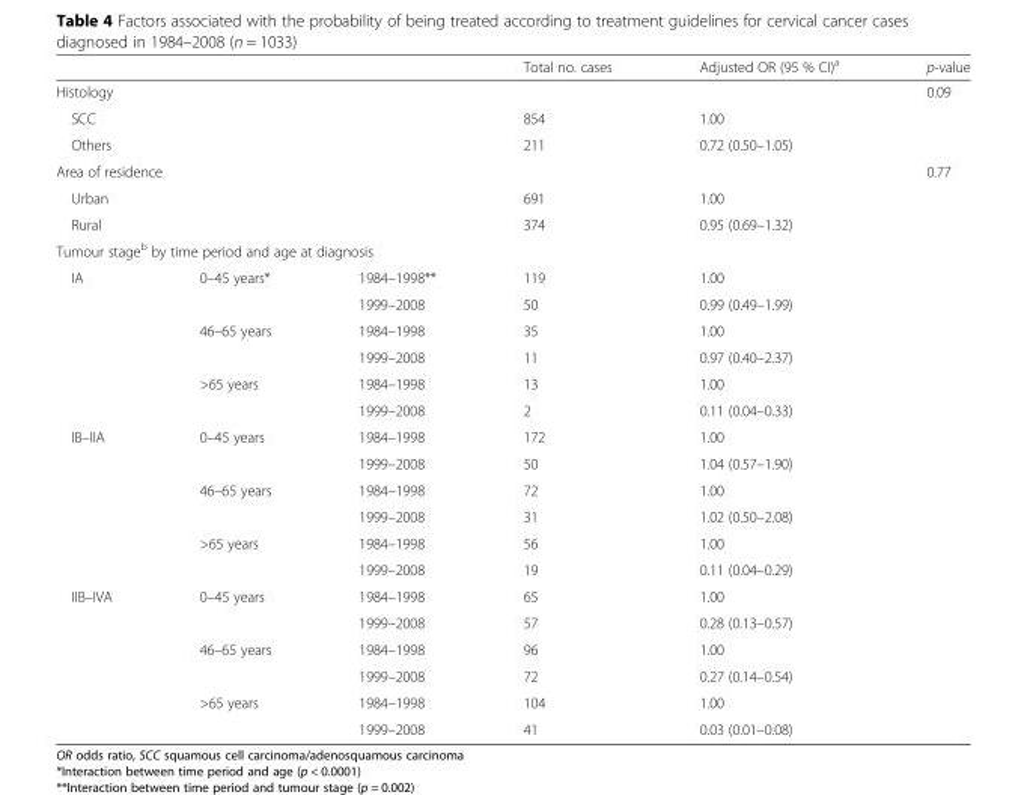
<table><thead><tr><td></td><td></td><td></td><td>Total no. cases</td><td>Adjusted OR (95 % CI)<sup>a</sup></td><td>p-value</td></tr></thead><tbody><tr><td colspan="3">Histology</td><td></td><td></td><td>0.09</td></tr><tr><td colspan="3">SCC</td><td>854</td><td>1.00</td><td></td></tr><tr><td colspan="3">Others</td><td>211</td><td>0.72 (0.50–1.05)</td><td></td></tr><tr><td colspan="3">Area of residence</td><td></td><td></td><td>0.77</td></tr><tr><td colspan="3">Urban</td><td>691</td><td>1.00</td><td></td></tr><tr><td colspan="3">Rural</td><td>374</td><td>0.95 (0.69–1.32)</td><td></td></tr><tr><td colspan="6">Tumour stage<sup>b</sup> by time period and age at diagnosis</td></tr><tr><td rowspan="6">IA</td><td>0–45 years*</td><td>1984–1998**</td><td>119</td><td>1.00</td><td></td></tr><tr><td></td><td>1999–2008</td><td>50</td><td>0.99 (0.49–1.99)</td><td></td></tr><tr><td>46–65 years</td><td>1984–1998</td><td>35</td><td>1.00</td><td></td></tr><tr><td></td><td>1999–2008</td><td>11</td><td>0.97 (0.40–2.37)</td><td></td></tr><tr><td>&gt;65 years</td><td>1984–1998</td><td>13</td><td>1.00</td><td></td></tr><tr><td></td><td>1999–2008</td><td>2</td><td>0.11 (0.04–0.33)</td><td></td></tr><tr><td rowspan="6">IB–IIA</td><td>0–45 years</td><td>1984–1998</td><td>172</td><td>1.00</td><td></td></tr><tr><td></td><td>1999–2008</td><td>50</td><td>1.04 (0.57–1.90)</td><td></td></tr><tr><td>46–65 years</td><td>1984–1998</td><td>72</td><td>1.00</td><td></td></tr><tr><td></td><td>1999–2008</td><td>31</td><td>1.02 (0.50–2.08)</td><td></td></tr><tr><td>&gt;65 years</td><td>1984–1998</td><td>56</td><td>1.00</td><td></td></tr><tr><td></td><td>1999–2008</td><td>19</td><td>0.11 (0.04–0.29)</td><td></td></tr><tr><td rowspan="6">IIB–IVA</td><td>0–45 years</td><td>1984–1998</td><td>65</td><td>1.00</td><td></td></tr><tr><td></td><td>1999–2008</td><td>57</td><td>0.28 (0.13–0.57)</td><td></td></tr><tr><td>46–65 years</td><td>1984–1998</td><td>96</td><td>1.00</td><td></td></tr><tr><td></td><td>1999–2008</td><td>72</td><td>0.27 (0.14–0.54)</td><td></td></tr><tr><td>&gt;65 years</td><td>1984–1998</td><td>104</td><td>1.00</td><td></td></tr><tr><td></td><td>1999–2008</td><td>41</td><td>0.03 (0.01–0.08)</td><td></td></tr></tbody></table>